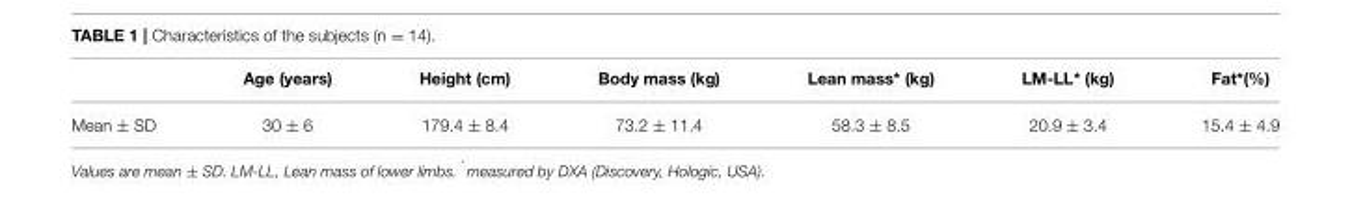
<table><thead><tr><td></td><td>Age (years)</td><td>Height (cm)</td><td>Body mass (kg)</td><td>Lean mass* (kg)</td><td>LM-LL* (kg)</td><td>Fat*(%)</td></tr></thead><tbody><tr><td>Mean ± SD</td><td>30 ± 6</td><td>179.4 ± 8.4</td><td>73.2 ± 11.4</td><td>58.3 ± 8.5</td><td>20.9 ± 3.4</td><td>15.4 ± 4.9</td></tr></tbody></table>